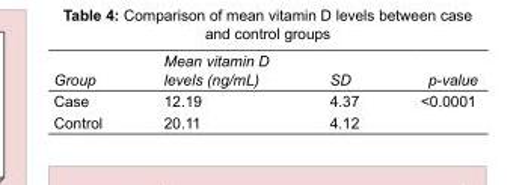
<table><tbody><tr><td>Group</td><td>Mean vitamin D levels (ng/mL)</td><td>SD</td><td>p-value</td></tr><tr><td>Case</td><td>12.19</td><td>4.37</td><td>&lt;0.0001</td></tr><tr><td>Control</td><td>20.11</td><td>4.12</td><td></td></tr></tbody></table>